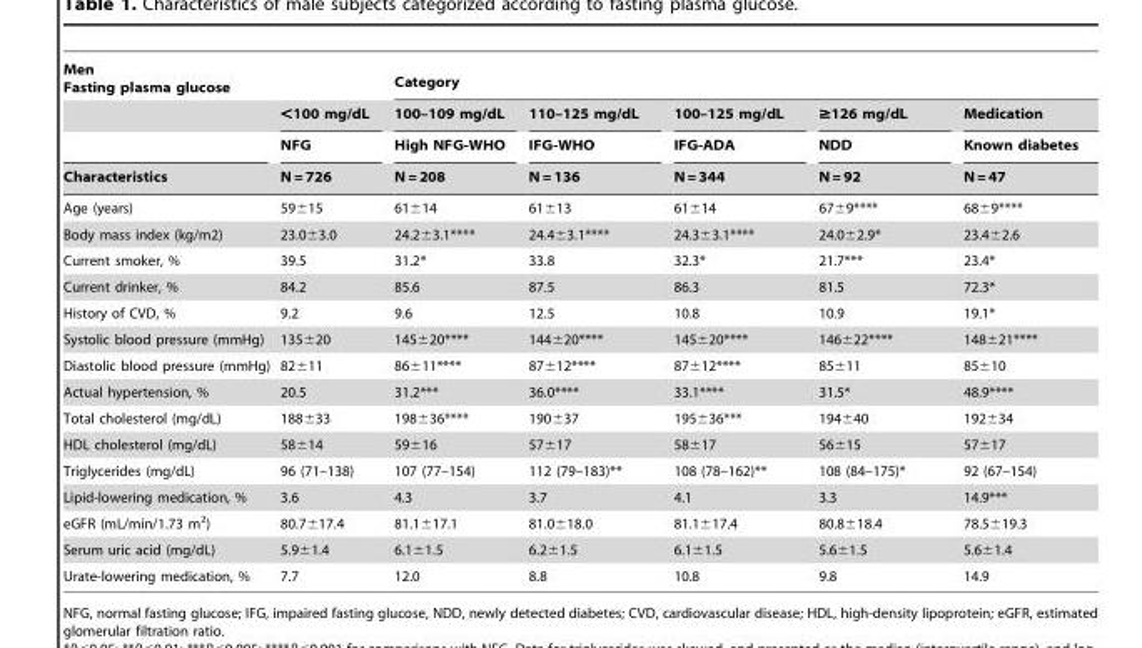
<table><thead><tr><td rowspan="4">Men Fasting plasma glucose Characteristics</td><td rowspan="4">&lt;100 mg/dL NFG N = 726</td><td colspan="5">Category</td></tr><tr><td rowspan="3">100–109 mg/dL High NFG-WHO N = 208</td><td rowspan="3">110–125 mg/dL IFG-WHO N = 136</td><td rowspan="3">100–125 mg/dL IFG-ADA N = 344</td><td rowspan="3">≥126 mg/dL NDD N = 92</td><td rowspan="3">Medication Known diabetes N = 47</td></tr><tr></tr><tr></tr></thead><tbody><tr><td>Age (years)</td><td>59±15</td><td>61±14</td><td>61±13</td><td>61±14</td><td>67±9****</td><td>68±9****</td></tr><tr><td>Body mass index (kg/m2)</td><td>23.0±3.0</td><td>24.2±3.1****</td><td>24.4±3.1****</td><td>24.3±3.1****</td><td>24.0±2.9*</td><td>23.4±2.6</td></tr><tr><td>Current smoker, %</td><td>39.5</td><td>31.2*</td><td>33.8</td><td>32.3*</td><td>21.7***</td><td>23.4*</td></tr><tr><td>Current drinker, %</td><td>84.2</td><td>85.6</td><td>87.5</td><td>86.3</td><td>81.5</td><td>72.3*</td></tr><tr><td>History of CVD, %</td><td>9.2</td><td>9.6</td><td>12.5</td><td>10.8</td><td>10.9</td><td>19.1*</td></tr><tr><td>Systolic blood pressure (mmHg)</td><td>135±20</td><td>145±20****</td><td>144±20****</td><td>145±20****</td><td>146±22****</td><td>148±21****</td></tr><tr><td>Diastolic blood pressure (mmHg)</td><td>82±11</td><td>86±11****</td><td>87±12****</td><td>87±12****</td><td>85±11</td><td>85±10</td></tr><tr><td>Actual hypertension, %</td><td>20.5</td><td>31.2***</td><td>36.0****</td><td>33.1****</td><td>31.5*</td><td>48.9****</td></tr><tr><td>Total cholesterol (mg/dL)</td><td>188±33</td><td>198±36****</td><td>190±37</td><td>195±36***</td><td>194±40</td><td>192±34</td></tr><tr><td>HDL cholesterol (mg/dL)</td><td>58±14</td><td>59±16</td><td>57±17</td><td>58±17</td><td>56±15</td><td>57±17</td></tr><tr><td>Triglycerides (mg/dL)</td><td>96 (71–138)</td><td>107 (77–154)</td><td>112 (79–183)**</td><td>108 (78–162)**</td><td>108 (84–175)*</td><td>92 (67–154)</td></tr><tr><td>Lipid-lowering medication, %</td><td>3.6</td><td>4.3</td><td>3.7</td><td>4.1</td><td>3.3</td><td>14.9***</td></tr><tr><td>eGFR (mL/min/1.73 m<sup>2</sup>)</td><td>80.7±17.4</td><td>81.1±17.1</td><td>81.0±18.0</td><td>81.1±17.4</td><td>80.8±18.4</td><td>78.5±19.3</td></tr><tr><td>Serum uric acid (mg/dL)</td><td>5.9±1.4</td><td>6.1±1.5</td><td>6.2±1.5</td><td>6.1±1.5</td><td>5.6±1.5</td><td>5.6±1.4</td></tr><tr><td>Urate-lowering medication, %</td><td>7.7</td><td>12.0</td><td>8.8</td><td>10.8</td><td>9.8</td><td>14.9</td></tr></tbody></table>